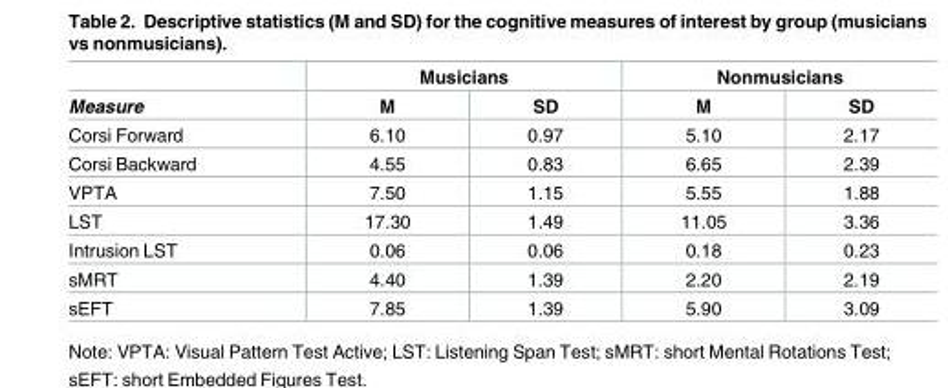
<table><thead><tr><td rowspan="2">Measure</td><td colspan="2">Musicians</td><td colspan="2">Nonmusicians</td></tr><tr><td>M</td><td>SD</td><td>M</td><td>SD</td></tr></thead><tbody><tr><td>Corsi Forward</td><td>6.10</td><td>0.97</td><td>5.10</td><td>2.17</td></tr><tr><td>Corsi Backward</td><td>4.55</td><td>0.83</td><td>6.65</td><td>2.39</td></tr><tr><td>VPTA</td><td>7.50</td><td>1.15</td><td>5.55</td><td>1.88</td></tr><tr><td>LST</td><td>17.30</td><td>1.49</td><td>11.05</td><td>3.36</td></tr><tr><td>Intrusion LST</td><td>0.06</td><td>0.06</td><td>0.18</td><td>0.23</td></tr><tr><td>sMRT</td><td>4.40</td><td>1.39</td><td>2.20</td><td>2.19</td></tr><tr><td>sEFT</td><td>7.85</td><td>1.39</td><td>5.90</td><td>3.09</td></tr></tbody></table>